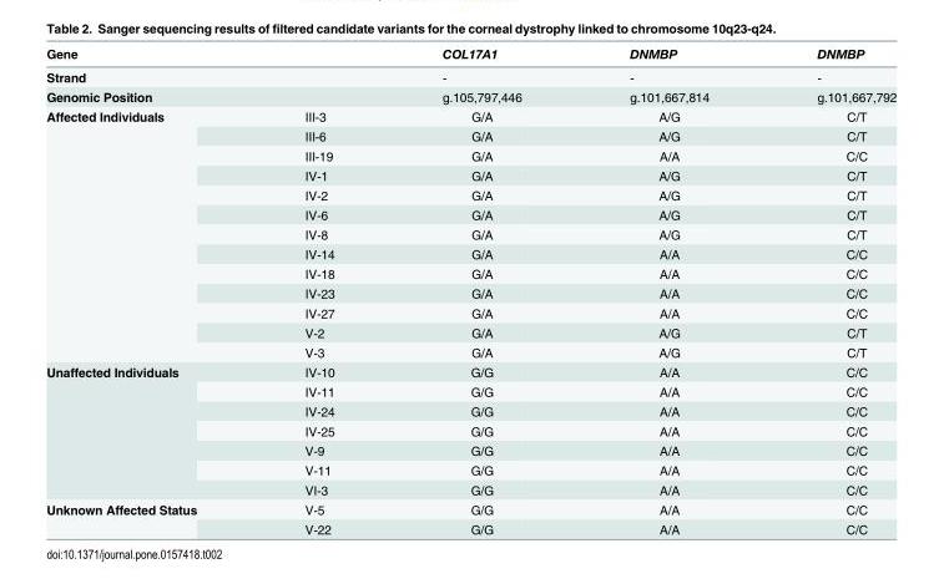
<table><thead><tr><td>Gene</td><td></td><td>COL17A1</td><td>DNMBP</td><td>DNMBP</td></tr></thead><tbody><tr><td>Strand</td><td></td><td>-</td><td>-</td><td>-</td></tr><tr><td>Genomic Position</td><td></td><td>g.105,797,446</td><td>g.101,667,814</td><td>g.101,667,792</td></tr><tr><td rowspan="13">Affected Individuals</td><td>III-3</td><td>G/A</td><td>A/G</td><td>C/T</td></tr><tr><td>III-6</td><td>G/A</td><td>A/G</td><td>C/T</td></tr><tr><td>III-19</td><td>G/A</td><td>A/A</td><td>C/C</td></tr><tr><td>IV-1</td><td>G/A</td><td>A/G</td><td>C/T</td></tr><tr><td>IV-2</td><td>G/A</td><td>A/G</td><td>C/T</td></tr><tr><td>IV-6</td><td>G/A</td><td>A/G</td><td>C/T</td></tr><tr><td>IV-8</td><td>G/A</td><td>A/G</td><td>C/T</td></tr><tr><td>IV-14</td><td>G/A</td><td>A/A</td><td>C/C</td></tr><tr><td>IV-18</td><td>G/A</td><td>A/A</td><td>C/C</td></tr><tr><td>IV-23</td><td>G/A</td><td>A/A</td><td>C/C</td></tr><tr><td>IV-27</td><td>G/A</td><td>A/A</td><td>C/C</td></tr><tr><td>V-2</td><td>G/A</td><td>A/G</td><td>C/T</td></tr><tr><td>V-3</td><td>G/A</td><td>A/G</td><td>C/T</td></tr><tr><td rowspan="7">Unaffected Individuals</td><td>IV-10</td><td>G/G</td><td>A/A</td><td>C/C</td></tr><tr><td>IV-11</td><td>G/G</td><td>A/A</td><td>C/C</td></tr><tr><td>IV-24</td><td>G/G</td><td>A/A</td><td>C/C</td></tr><tr><td>IV-25</td><td>G/G</td><td>A/A</td><td>C/C</td></tr><tr><td>V-9</td><td>G/G</td><td>A/A</td><td>C/C</td></tr><tr><td>V-11</td><td>G/G</td><td>A/A</td><td>C/C</td></tr><tr><td>VI-3</td><td>G/G</td><td>A/A</td><td>C/C</td></tr><tr><td rowspan="2">Unknown Affected Status</td><td>V-5</td><td>G/G</td><td>A/A</td><td>C/C</td></tr><tr><td>V-22</td><td>G/G</td><td>A/A</td><td>C/C</td></tr></tbody></table>